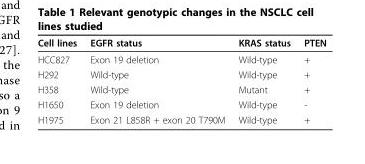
<table><thead><tr><td>Cell lines</td><td>EGFR status</td><td>KRAS status</td><td>PTEN</td></tr></thead><tbody><tr><td>HCC827</td><td>Exon 19 deletion</td><td>Wild-type</td><td>+</td></tr><tr><td>H292</td><td>Wild-type</td><td>Wild-type</td><td>+</td></tr><tr><td>H358</td><td>Wild-type</td><td>Mutant</td><td>+</td></tr><tr><td>H1650</td><td>Exon 19 deletion</td><td>Wild-type</td><td>-</td></tr><tr><td>H1975</td><td>Exon 21 L858R + exon 20 T790M</td><td>Wild-type</td><td>+</td></tr></tbody></table>